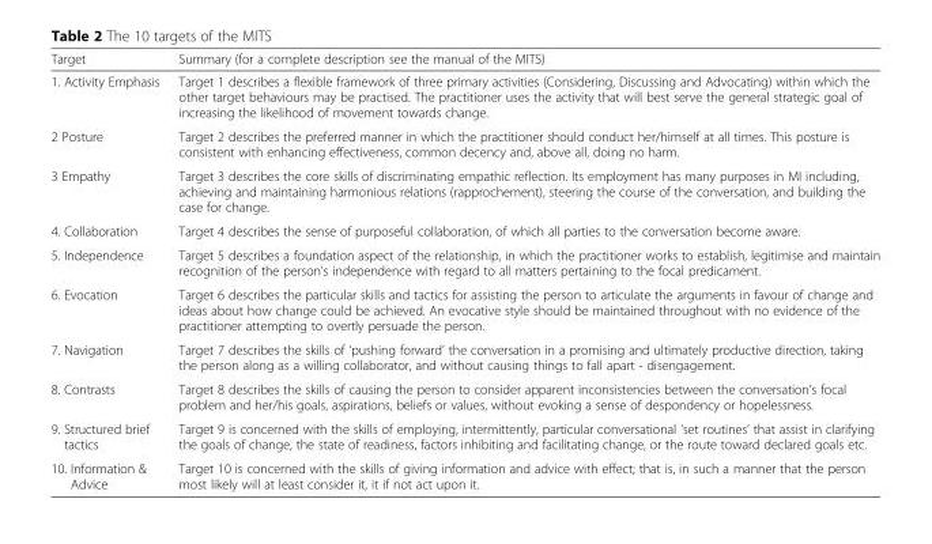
<table><thead><tr><td>Target</td><td>Summary (for a complete description see the manual of the MITS)</td></tr></thead><tbody><tr><td>1. Activity Emphasis</td><td>Target 1 describes a flexible framework of three primary activities (Considering, Discussing and Advocating) within which the other target behaviours may be practised. The practitioner uses the activity that will best serve the general strategic goal of increasing the likelihood of movement towards change.</td></tr><tr><td>2 Posture</td><td>Target 2 describes the preferred manner in which the practitioner should conduct her/himself at all times. This posture is consistent with enhancing effectiveness, common decency and, above all, doing no harm.</td></tr><tr><td>3 Empathy</td><td>Target 3 describes the core skills of discriminating empathic reflection. Its employment has many purposes in MI including, achieving and maintaining harmonious relations (rapprochement), steering the course of the conversation, and building the case for change.</td></tr><tr><td>4. Collaboration</td><td>Target 4 describes the sense of purposeful collaboration, of which all parties to the conversation become aware.</td></tr><tr><td>5. Independence</td><td>Target 5 describes a foundation aspect of the relationship, in which the practitioner works to establish, legitimise and maintain recognition of the person’s independence with regard to all matters pertaining to the focal predicament.</td></tr><tr><td>6. Evocation</td><td>Target 6 describes the particular skills and tactics for assisting the person to articulate the arguments in favour of change and ideas about how change could be achieved. An evocative style should be maintained throughout with no evidence of the practitioner attempting to overtly persuade the person.</td></tr><tr><td>7. Navigation</td><td>Target 7 describes the skills of ‘pushing forward’ the conversation in a promising and ultimately productive direction, taking the person along as a willing collaborator, and without causing things to fall apart - disengagement.</td></tr><tr><td>8. Contrasts</td><td>Target 8 describes the skills of causing the person to consider apparent inconsistencies between the conversation’s focal problem and her/his goals, aspirations, beliefs or values, without evoking a sense of despondency or hopelessness.</td></tr><tr><td>9. Structured brief tactics</td><td>Target 9 is concerned with the skills of employing, intermittently, particular conversational ‘set routines’ that assist in clarifying the goals of change, the state of readiness, factors inhibiting and facilitating change, or the route toward declared goals etc.</td></tr><tr><td>10. Information &amp; Advice</td><td>Target 10 is concerned with the skills of giving information and advice with effect; that is, in such a manner that the person most likely will at least consider it, it if not act upon it.</td></tr></tbody></table>